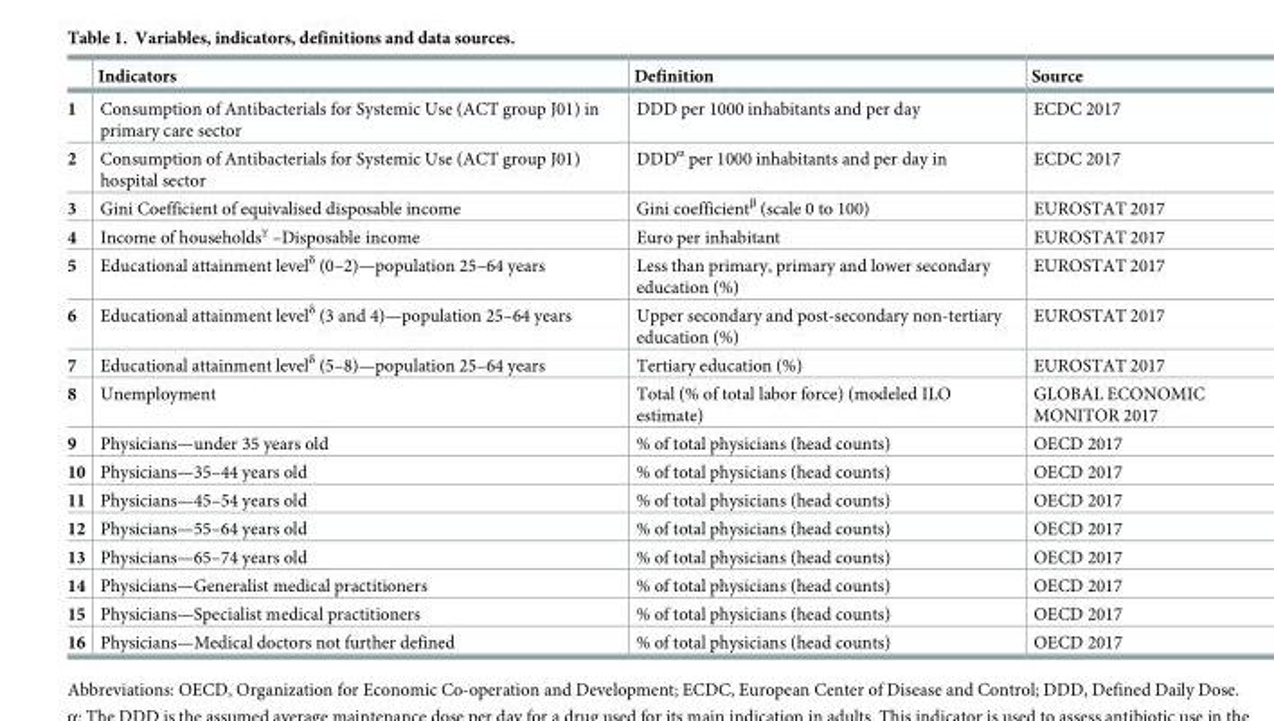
<table><thead><tr><td></td><td>Indicators</td><td>Definition</td><td>Source</td></tr></thead><tbody><tr><td>1</td><td>Consumption of Antibacterials for Systemic Use (ACT group J01) in primary care sector</td><td>DDD per 1000 inhabitants and per day</td><td>ECDC 2017</td></tr><tr><td>2</td><td>Consumption of Antibacterials for Systemic Use (ACT group J01) hospital sector</td><td>DDD<sup>α</sup> per 1000 inhabitants and per day in</td><td>ECDC 2017</td></tr><tr><td>3</td><td>Gini Coefficient of equivalised disposable income</td><td>Gini coefficient<sup>β</sup> (scale 0 to 100)</td><td>EUROSTAT 2017</td></tr><tr><td>4</td><td>Income of households<sup>γ</sup> –Disposable income</td><td>Euro per inhabitant</td><td>EUROSTAT 2017</td></tr><tr><td>5</td><td>Educational attainment level<sup>δ</sup> (0–2)—population 25–64 years</td><td>Less than primary, primary and lower secondary education (%)</td><td>EUROSTAT 2017</td></tr><tr><td>6</td><td>Educational attainment level<sup>δ</sup> (3 and 4)—population 25–64 years</td><td>Upper secondary and post-secondary non-tertiary education (%)</td><td>EUROSTAT 2017</td></tr><tr><td>7</td><td>Educational attainment level<sup>δ</sup> (5–8)—population 25–64 years</td><td>Tertiary education (%)</td><td>EUROSTAT 2017</td></tr><tr><td>8</td><td>Unemployment</td><td>Total (% of total labor force) (modeled ILO estimate)</td><td>GLOBAL ECONOMIC MONITOR 2017</td></tr><tr><td>9</td><td>Physicians—under 35 years old</td><td>% of total physicians (head counts)</td><td>OECD 2017</td></tr><tr><td>10</td><td>Physicians—35–44 years old</td><td>% of total physicians (head counts)</td><td>OECD 2017</td></tr><tr><td>11</td><td>Physicians—45–54 years old</td><td>% of total physicians (head counts)</td><td>OECD 2017</td></tr><tr><td>12</td><td>Physicians—55–64 years old</td><td>% of total physicians (head counts)</td><td>OECD 2017</td></tr><tr><td>13</td><td>Physicians—65–74 years old</td><td>% of total physicians (head counts)</td><td>OECD 2017</td></tr><tr><td>14</td><td>Physicians—Generalist medical practitioners</td><td>% of total physicians (head counts)</td><td>OECD 2017</td></tr><tr><td>15</td><td>Physicians—Specialist medical practitioners</td><td>% of total physicians (head counts)</td><td>OECD 2017</td></tr><tr><td>16</td><td>Physicians—Medical doctors not further defined</td><td>% of total physicians (head counts)</td><td>OECD 2017</td></tr></tbody></table>